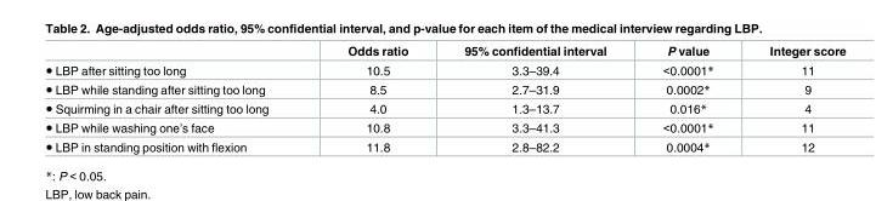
<table><thead><tr><td></td><td>Odds ratio</td><td>95% confidential interval</td><td>P value</td><td>Integer score</td></tr></thead><tbody><tr><td>● LBP after sitting too long</td><td>10.5</td><td>3.3–39.4</td><td>&lt;0.0001*</td><td>11</td></tr><tr><td>● LBP while standing after sitting too long</td><td>8.5</td><td>2.7–31.9</td><td>0.0002*</td><td>9</td></tr><tr><td>● Squirming in a chair after sitting too long</td><td>4.0</td><td>1.3–13.7</td><td>0.016*</td><td>4</td></tr><tr><td>● LBP while washing one’s face</td><td>10.8</td><td>3.3–41.3</td><td>&lt;0.0001*</td><td>11</td></tr><tr><td>● LBP in standing position with flexion</td><td>11.8</td><td>2.8–82.2</td><td>0.0004*</td><td>12</td></tr></tbody></table>